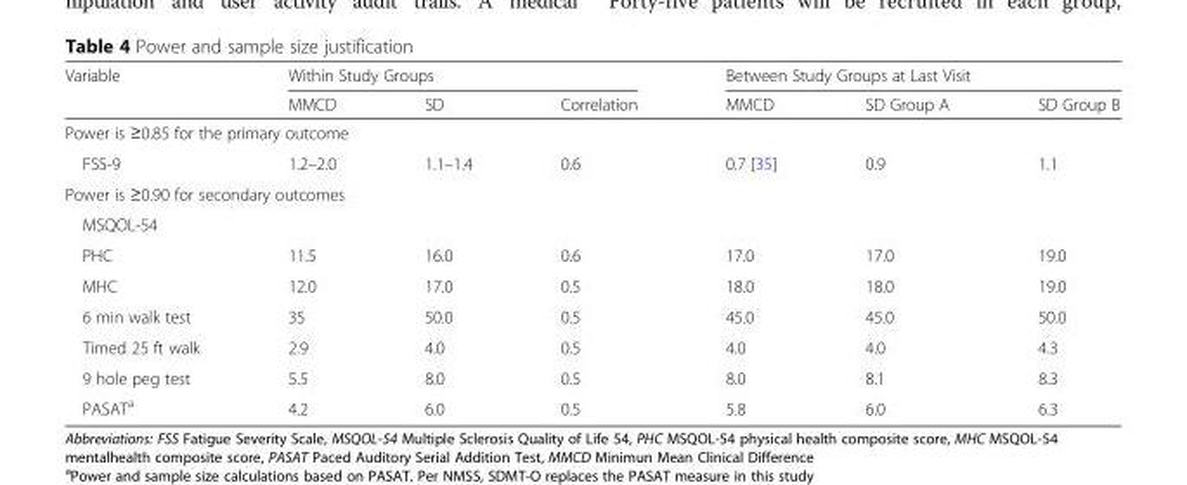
<table><thead><tr><td rowspan="2">Variable</td><td colspan="3">Within Study Groups</td><td colspan="3">Between Study Groups at Last Visit</td></tr><tr><td>MMCD</td><td>SD</td><td>Correlation</td><td>MMCD</td><td>SD Group A</td><td>SD Group B</td></tr></thead><tbody><tr><td colspan="7">Power is ≥0.85 for the primary outcome</td></tr><tr><td>FSS-9</td><td>1.2–2.0</td><td>1.1–1.4</td><td>0.6</td><td>0.7 [35]</td><td>0.9</td><td>1.1</td></tr><tr><td colspan="7">Power is ≥0.90 for secondary outcomes</td></tr><tr><td colspan="7">MSQOL-54</td></tr><tr><td>PHC</td><td>11.5</td><td>16.0</td><td>0.6</td><td>17.0</td><td>17.0</td><td>19.0</td></tr><tr><td>MHC</td><td>12.0</td><td>17.0</td><td>0.5</td><td>18.0</td><td>18.0</td><td>19.0</td></tr><tr><td>6 min walk test</td><td>35</td><td>50.0</td><td>0.5</td><td>45.0</td><td>45.0</td><td>50.0</td></tr><tr><td>Timed 25 ft walk</td><td>2.9</td><td>4.0</td><td>0.5</td><td>4.0</td><td>4.0</td><td>4.3</td></tr><tr><td>9 hole peg test</td><td>5.5</td><td>8.0</td><td>0.5</td><td>8.0</td><td>8.1</td><td>8.3</td></tr><tr><td>PASAT<sup>a</sup></td><td>4.2</td><td>6.0</td><td>0.5</td><td>5.8</td><td>6.0</td><td>6.3</td></tr></tbody></table>